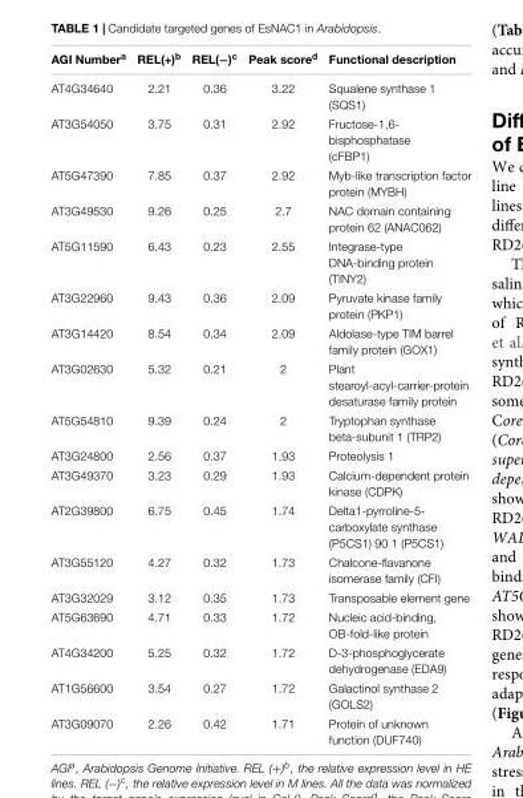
<table><thead><tr><td>AGI Number<sup>a</sup></td><td>REL(+)<sup>b</sup></td><td>REL(−)<sup>c</sup></td><td>Peak score<sup>d</sup></td><td>Functional description</td></tr></thead><tbody><tr><td>AT4G34640</td><td>2.21</td><td>0.36</td><td>3.22</td><td>Squalene synthase 1 (SQS1)</td></tr><tr><td>AT3G54050</td><td>3.75</td><td>0.31</td><td>2.92</td><td>Fructose-1,6- bisphosphatase (cFBP1)</td></tr><tr><td>AT5G47390</td><td>7.85</td><td>0.37</td><td>2.92</td><td>Myb-like transcription factor protein (MYBH)</td></tr><tr><td>AT3G49530</td><td>9.26</td><td>0.25</td><td>2.7</td><td>NAC domain containing protein 62 (ANAC062)</td></tr><tr><td>AT5G11590</td><td>6.43</td><td>0.23</td><td>2.55</td><td>Integrase-type DNA-binding protein (TINY2)</td></tr><tr><td>AT3G22960</td><td>9.43</td><td>0.36</td><td>2.09</td><td>Pyruvate kinase family protein (PKP1)</td></tr><tr><td>AT3G14420</td><td>8.54</td><td>0.34</td><td>2.09</td><td>Aldolase-type TIM barrel family protein (GOX1)</td></tr><tr><td>AT3G02630</td><td>5.32</td><td>0.21</td><td>2</td><td>Plant stearoyl-acyl-carrier-protein desaturase family protein</td></tr><tr><td>AT5G54810</td><td>9.39</td><td>0.24</td><td>2</td><td>Tryptophan synthase beta-subunit 1 (TRP2)</td></tr><tr><td>AT3G24800</td><td>2.56</td><td>0.37</td><td>1.93</td><td>Proteolysis 1</td></tr><tr><td>AT3G49370</td><td>3.23</td><td>0.29</td><td>1.93</td><td>Calcium-dependent protein kinase (CDPK)</td></tr><tr><td>AT2G39800</td><td>6.75</td><td>0.45</td><td>1.74</td><td>Delta1-pyrroline-5- carboxylate synthase (P5CS1) 90 1 (P5CS1)</td></tr><tr><td>AT3G55120</td><td>4.27</td><td>0.32</td><td>1.73</td><td>Chalcone-flavanone isomerase family (CFI)</td></tr><tr><td>AT3G32029</td><td>3.12</td><td>0.35</td><td>1.73</td><td>Transposable element gene</td></tr><tr><td>AT5G63690</td><td>4.71</td><td>0.33</td><td>1.72</td><td>Nucleic acid-binding, OB-fold-like protein</td></tr><tr><td>AT4G34200</td><td>5.25</td><td>0.32</td><td>1.72</td><td>D-3-phosphoglycerate dehydrogenase (EDA9)</td></tr><tr><td>AT1G56600</td><td>3.54</td><td>0.27</td><td>1.72</td><td>Galactinol synthase 2 (GOLS2)</td></tr><tr><td>AT3G09070</td><td>2.26</td><td>0.42</td><td>1.71</td><td>Protein of unknown function (DUF740)</td></tr></tbody></table>